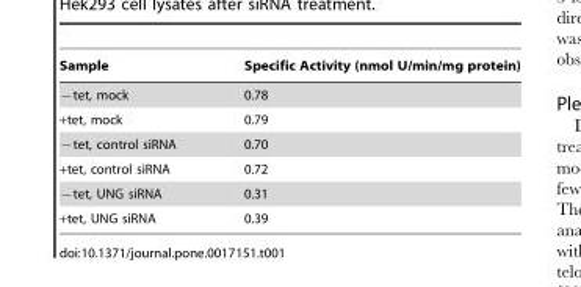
<table><thead><tr><td>Sample</td><td>Specific Activity (nmol U/min/mg protein)</td></tr></thead><tbody><tr><td>{tet, mock</td><td>0.78</td></tr><tr><td>+tet, mock</td><td>0.79</td></tr><tr><td>{tet, control siRNA</td><td>0.70</td></tr><tr><td>+tet, control siRNA</td><td>0.72</td></tr><tr><td>{tet, UNG siRNA</td><td>0.31</td></tr><tr><td>+tet, UNG siRNA</td><td>0.39</td></tr></tbody></table>